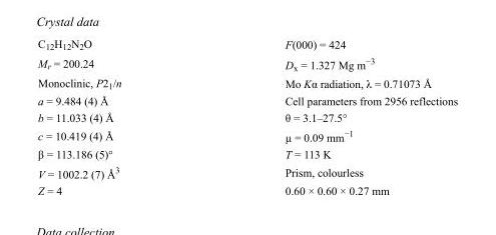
<table><tbody><tr><td>C<sub>12</sub>H<sub>12</sub>N<sub>2</sub>O</td><td>F(000) = 424</td></tr><tr><td>M<sub>r</sub> = 200.24</td><td>D<sub>x</sub> = 1.327 Mg m<sup>−3</sup></td></tr><tr><td>Monoclinic, P2<sub>1</sub>/n</td><td>Mo Kα radiation, λ = 0.71073 Å</td></tr><tr><td>a = 9.484 (4) Å</td><td>Cell parameters from 2956 reflections</td></tr><tr><td>b = 11.033 (4) Å</td><td>θ = 3.1–27.5°</td></tr><tr><td>c = 10.419 (4) Å</td><td>µ = 0.09 mm<sup>−1</sup></td></tr><tr><td>β = 113.186 (5)°</td><td>T = 113 K</td></tr><tr><td>V = 1002.2 (7) Å<sup>3</sup></td><td>Prism, colourless</td></tr><tr><td>Z = 4</td><td>0.60 × 0.60 × 0.27 mm</td></tr></tbody></table>